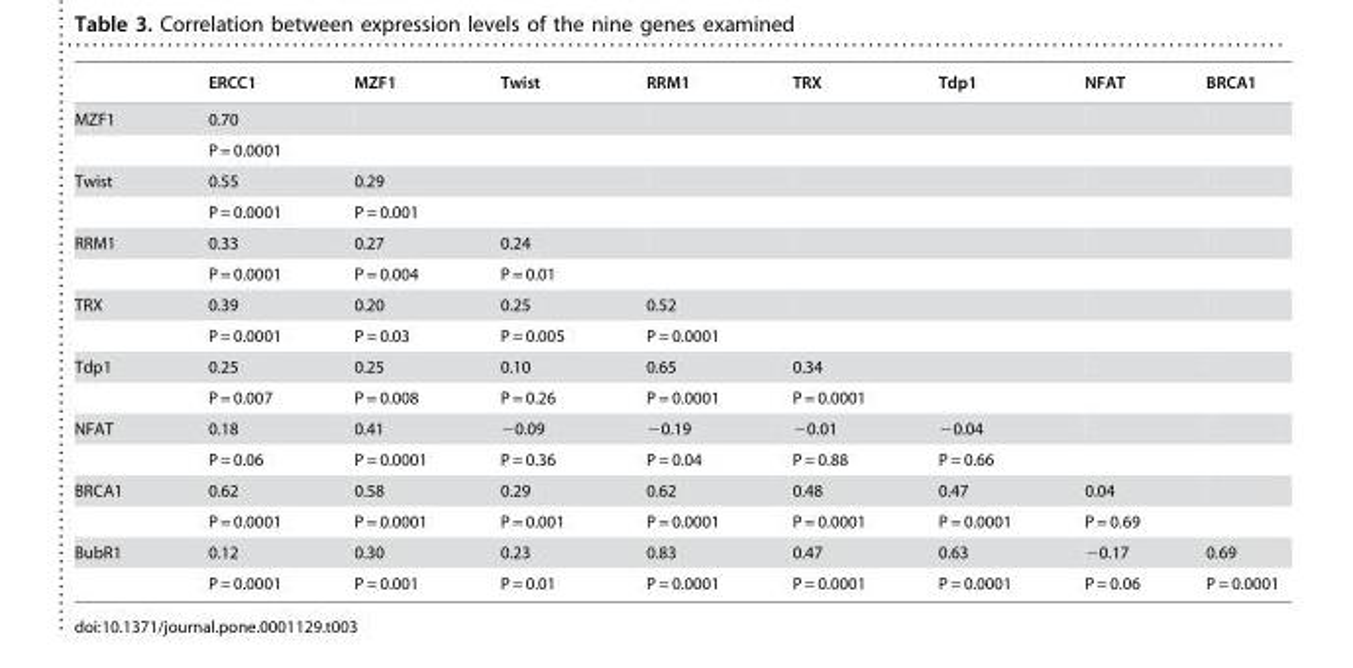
<table><thead><tr><td></td><td>ERCC1</td><td>MZF1</td><td>Twist</td><td>RRM1</td><td>TRX</td><td>Tdp1</td><td>NFAT</td><td>BRCA1</td></tr></thead><tbody><tr><td rowspan="2">MZF1</td><td>0.70</td><td></td><td></td><td></td><td></td><td></td><td></td><td></td></tr><tr><td>P = 0.0001</td><td></td><td></td><td></td><td></td><td></td><td></td><td></td></tr><tr><td rowspan="2">Twist</td><td>0.55</td><td>0.29</td><td></td><td></td><td></td><td></td><td></td><td></td></tr><tr><td>P = 0.0001</td><td>P = 0.001</td><td></td><td></td><td></td><td></td><td></td><td></td></tr><tr><td rowspan="2">RRM1</td><td>0.33</td><td>0.27</td><td>0.24</td><td></td><td></td><td></td><td></td><td></td></tr><tr><td>P = 0.0001</td><td>P = 0.004</td><td>P = 0.01</td><td></td><td></td><td></td><td></td><td></td></tr><tr><td rowspan="2">TRX</td><td>0.39</td><td>0.20</td><td>0.25</td><td>0.52</td><td></td><td></td><td></td><td></td></tr><tr><td>P = 0.0001</td><td>P = 0.03</td><td>P = 0.005</td><td>P = 0.0001</td><td></td><td></td><td></td><td></td></tr><tr><td rowspan="2">Tdp1</td><td>0.25</td><td>0.25</td><td>0.10</td><td>0.65</td><td>0.34</td><td></td><td></td><td></td></tr><tr><td>P = 0.007</td><td>P = 0.008</td><td>P = 0.26</td><td>P = 0.0001</td><td>P = 0.0001</td><td></td><td></td><td></td></tr><tr><td rowspan="2">NFAT</td><td>0.18</td><td>0.41</td><td>−0.09</td><td>−0.19</td><td>−0.01</td><td>−0.04</td><td></td><td></td></tr><tr><td>P = 0.06</td><td>P = 0.0001</td><td>P = 0.36</td><td>P = 0.04</td><td>P = 0.88</td><td>P = 0.66</td><td></td><td></td></tr><tr><td rowspan="2">BRCA1</td><td>0.62</td><td>0.58</td><td>0.29</td><td>0.62</td><td>0.48</td><td>0.47</td><td>0.04</td><td></td></tr><tr><td>P = 0.0001</td><td>P = 0.0001</td><td>P = 0.001</td><td>P = 0.0001</td><td>P = 0.0001</td><td>P = 0.0001</td><td>P = 0.69</td><td></td></tr><tr><td rowspan="2">BubR1</td><td>0.12</td><td>0.30</td><td>0.23</td><td>0.83</td><td>0.47</td><td>0.63</td><td>−0.17</td><td>0.69</td></tr><tr><td>P = 0.0001</td><td>P = 0.001</td><td>P = 0.01</td><td>P = 0.0001</td><td>P = 0.0001</td><td>P = 0.0001</td><td>P = 0.06</td><td>P = 0.0001</td></tr></tbody></table>